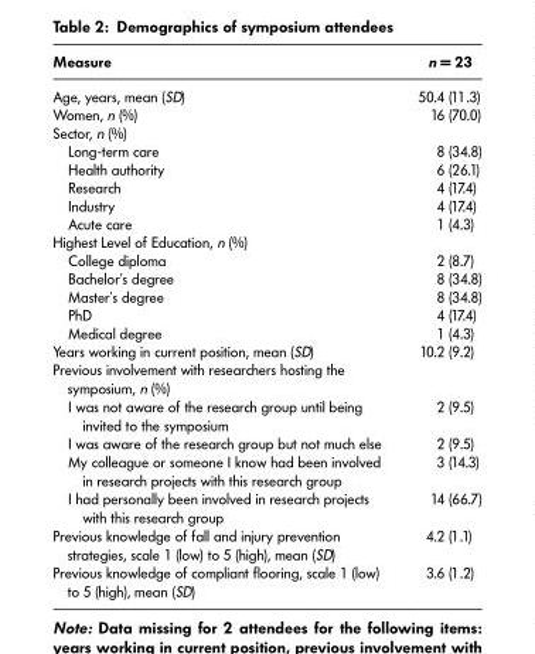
<table><thead><tr><td>Measure</td><td>n = 23</td></tr></thead><tbody><tr><td>Age, years, mean (SD)</td><td>50.4 (11.3)</td></tr><tr><td>Women, n (%)</td><td>16 (70.0)</td></tr><tr><td colspan="2">Sector, n (%)</td></tr><tr><td>Long-term care</td><td>8 (34.8)</td></tr><tr><td>Health authority</td><td>6 (26.1)</td></tr><tr><td>Research</td><td>4 (17.4)</td></tr><tr><td>Industry</td><td>4 (17.4)</td></tr><tr><td>Acute care</td><td>1 (4.3)</td></tr><tr><td colspan="2">Highest Level of Education, n (%)</td></tr><tr><td>College diploma</td><td>2 (8.7)</td></tr><tr><td>Bachelor’s degree</td><td>8 (34.8)</td></tr><tr><td>Master’s degree</td><td>8 (34.8)</td></tr><tr><td>PhD</td><td>4 (17.4)</td></tr><tr><td>Medical degree</td><td>1 (4.3)</td></tr><tr><td>Years working in current position, mean (SD)</td><td>10.2 (9.2)</td></tr><tr><td colspan="2">Previous involvement with researchers hosting the symposium, n (%)</td></tr><tr><td>I was not aware of the research group until being invited to the symposium</td><td>2 (9.5)</td></tr><tr><td>I was aware of the research group but not much else</td><td>2 (9.5)</td></tr><tr><td>My colleague or someone I know had been involved in research projects with this research group</td><td>3 (14.3)</td></tr><tr><td>I had personally been involved in research projects with this research group</td><td>14 (66.7)</td></tr><tr><td>Previous knowledge of fall and injury prevention strategies, scale 1 (low) to 5 (high), mean (SD)</td><td>4.2 (1.1)</td></tr><tr><td>Previous knowledge of compliant flooring, scale 1 (low) to 5 (high), mean (SD)</td><td>3.6 (1.2)</td></tr></tbody></table>